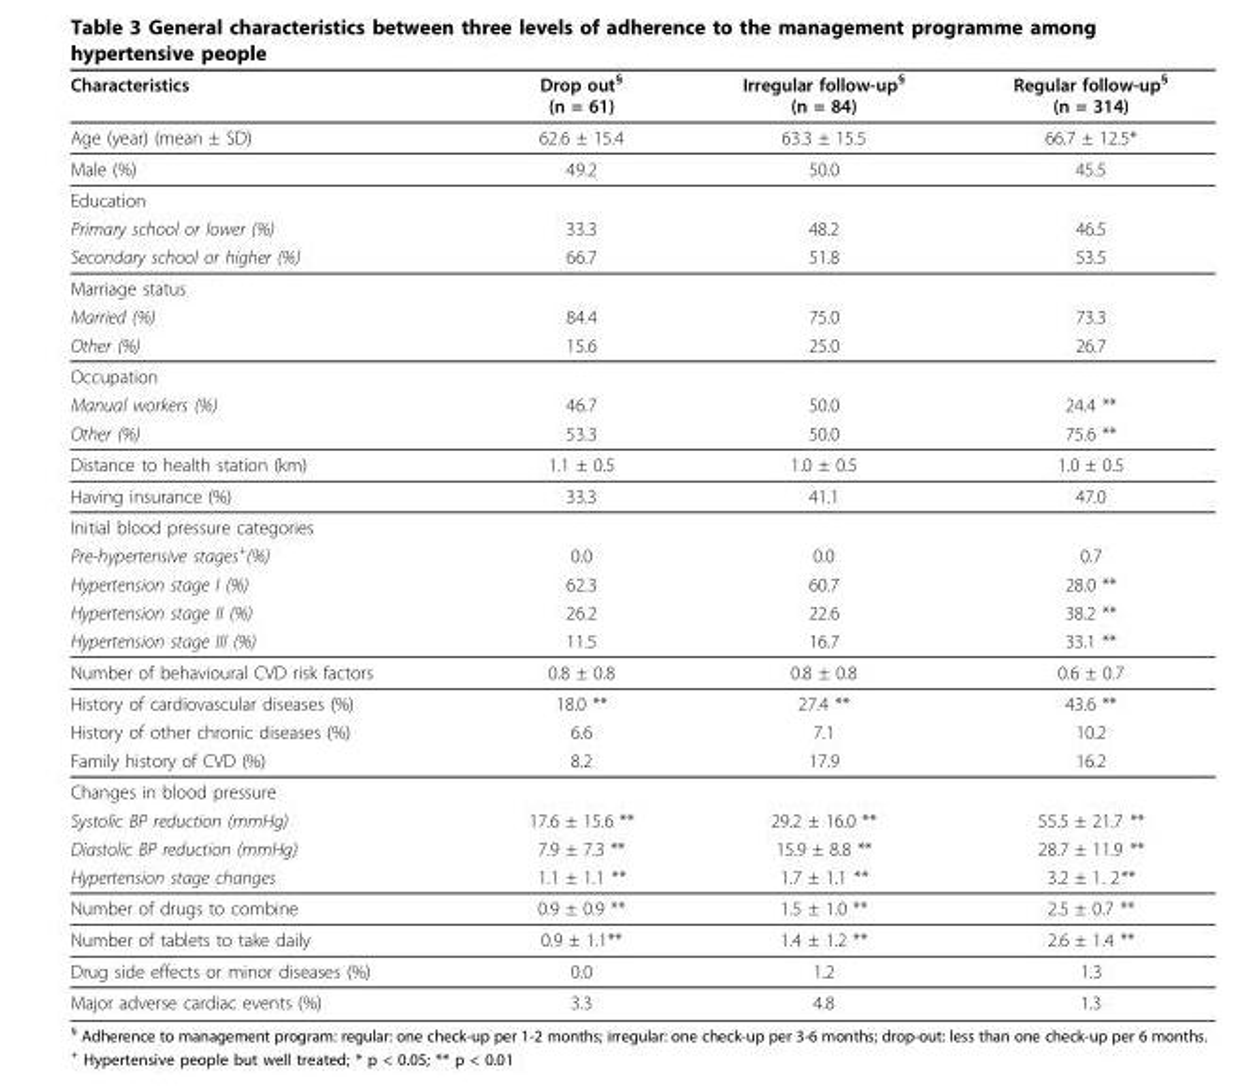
<table><thead><tr><td>Characteristics</td><td>Drop out<sup>§</sup> (n = 61)</td><td>Irregular follow-up<sup>§</sup> (n = 84)</td><td>Regular follow-up<sup>§</sup> (n = 314)</td></tr></thead><tbody><tr><td>Age (year) (mean ± SD)</td><td>62.6 ± 15.4</td><td>63.3 ± 15.5</td><td>66.7 ± 12.5*</td></tr><tr><td>Male (%)</td><td>49.2</td><td>50.0</td><td>45.5</td></tr><tr><td colspan="4">Education</td></tr><tr><td>Primary school or lower (%)</td><td>33.3</td><td>48.2</td><td>46.5</td></tr><tr><td>Secondary school or higher (%)</td><td>66.7</td><td>51.8</td><td>53.5</td></tr><tr><td colspan="4">Marriage status</td></tr><tr><td>Married (%)</td><td>84.4</td><td>75.0</td><td>73.3</td></tr><tr><td>Other (%)</td><td>15.6</td><td>25.0</td><td>26.7</td></tr><tr><td colspan="4">Occupation</td></tr><tr><td>Manual workers (%)</td><td>46.7</td><td>50.0</td><td>24.4 **</td></tr><tr><td>Other (%)</td><td>53.3</td><td>50.0</td><td>75.6 **</td></tr><tr><td>Distance to health station (km)</td><td>1.1 ± 0.5</td><td>1.0 ± 0.5</td><td>1.0 ± 0.5</td></tr><tr><td>Having insurance (%)</td><td>33.3</td><td>41.1</td><td>47.0</td></tr><tr><td colspan="4">Initial blood pressure categories</td></tr><tr><td>Pre-hypertensive stages<sup>+</sup>(%)</td><td>0.0</td><td>0.0</td><td>0.7</td></tr><tr><td>Hypertension stage I (%)</td><td>62.3</td><td>60.7</td><td>28.0 **</td></tr><tr><td>Hypertension stage II (%)</td><td>26.2</td><td>22.6</td><td>38.2 **</td></tr><tr><td>Hypertension stage III (%)</td><td>11.5</td><td>16.7</td><td>33.1 **</td></tr><tr><td>Number of behavioural CVD risk factors</td><td>0.8 ± 0.8</td><td>0.8 ± 0.8</td><td>0.6 ± 0.7</td></tr><tr><td>History of cardiovascular diseases (%)</td><td>18.0 **</td><td>27.4 **</td><td>43.6 **</td></tr><tr><td>History of other chronic diseases (%)</td><td>6.6</td><td>7.1</td><td>10.2</td></tr><tr><td>Family history of CVD (%)</td><td>8.2</td><td>17.9</td><td>16.2</td></tr><tr><td colspan="4">Changes in blood pressure</td></tr><tr><td>Systolic BP reduction (mmHg)</td><td>17.6 ± 15.6 **</td><td>29.2 ± 16.0 **</td><td>55.5 ± 21.7 **</td></tr><tr><td>Diastolic BP reduction (mmHg)</td><td>7.9 ± 7.3 **</td><td>15.9 ± 8.8 **</td><td>28.7 ± 11.9 **</td></tr><tr><td>Hypertension stage changes</td><td>1.1 ± 1.1 **</td><td>1.7 ± 1.1 **</td><td>3.2 ± 1. 2**</td></tr><tr><td>Number of drugs to combine</td><td>0.9 ± 0.9 **</td><td>1.5 ± 1.0 **</td><td>2.5 ± 0.7 **</td></tr><tr><td>Number of tablets to take daily</td><td>0.9 ± 1.1**</td><td>1.4 ± 1.2 **</td><td>2.6 ± 1.4 **</td></tr><tr><td>Drug side effects or minor diseases (%)</td><td>0.0</td><td>1.2</td><td>1.3</td></tr><tr><td>Major adverse cardiac events (%)</td><td>3.3</td><td>4.8</td><td>1.3</td></tr></tbody></table>